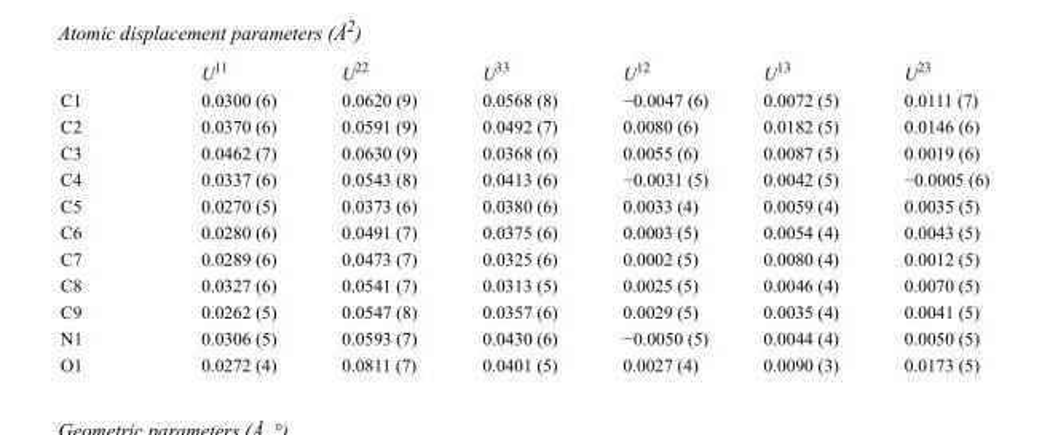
<table><thead><tr><td></td><td>U<sup>11</sup></td><td>U<sup>22</sup></td><td>U<sup>33</sup></td><td>U<sup>12</sup></td><td>U<sup>13</sup></td><td>U<sup>23</sup></td></tr></thead><tbody><tr><td>C1</td><td>0.0300 (6)</td><td>0.0620 (9)</td><td>0.0568 (8)</td><td>−0.0047 (6)</td><td>0.0072 (5)</td><td>0.0111 (7)</td></tr><tr><td>C2</td><td>0.0370 (6)</td><td>0.0591 (9)</td><td>0.0492 (7)</td><td>0.0080 (6)</td><td>0.0182 (5)</td><td>0.0146 (6)</td></tr><tr><td>C3</td><td>0.0462 (7)</td><td>0.0630 (9)</td><td>0.0368 (6)</td><td>0.0055 (6)</td><td>0.0087 (5)</td><td>0.0019 (6)</td></tr><tr><td>C4</td><td>0.0337 (6)</td><td>0.0543 (8)</td><td>0.0413 (6)</td><td>−0.0031 (5)</td><td>0.0042 (5)</td><td>−0.0005 (6)</td></tr><tr><td>C5</td><td>0.0270 (5)</td><td>0.0373 (6)</td><td>0.0380 (6)</td><td>0.0033 (4)</td><td>0.0059 (4)</td><td>0.0035 (5)</td></tr><tr><td>C6</td><td>0.0280 (6)</td><td>0.0491 (7)</td><td>0.0375 (6)</td><td>0.0003 (5)</td><td>0.0054 (4)</td><td>0.0043 (5)</td></tr><tr><td>C7</td><td>0.0289 (6)</td><td>0.0473 (7)</td><td>0.0325 (6)</td><td>0.0002 (5)</td><td>0.0080 (4)</td><td>0.0012 (5)</td></tr><tr><td>C8</td><td>0.0327 (6)</td><td>0.0541 (7)</td><td>0.0313 (5)</td><td>0.0025 (5)</td><td>0.0046 (4)</td><td>0.0070 (5)</td></tr><tr><td>C9</td><td>0.0262 (5)</td><td>0.0547 (8)</td><td>0.0357 (6)</td><td>0.0029 (5)</td><td>0.0035 (4)</td><td>0.0041 (5)</td></tr><tr><td>N1</td><td>0.0306 (5)</td><td>0.0593 (7)</td><td>0.0430 (6)</td><td>−0.0050 (5)</td><td>0.0044 (4)</td><td>0.0050 (5)</td></tr><tr><td>O1</td><td>0.0272 (4)</td><td>0.0811 (7)</td><td>0.0401 (5)</td><td>0.0027 (4)</td><td>0.0090 (3)</td><td>0.0173 (5)</td></tr></tbody></table>